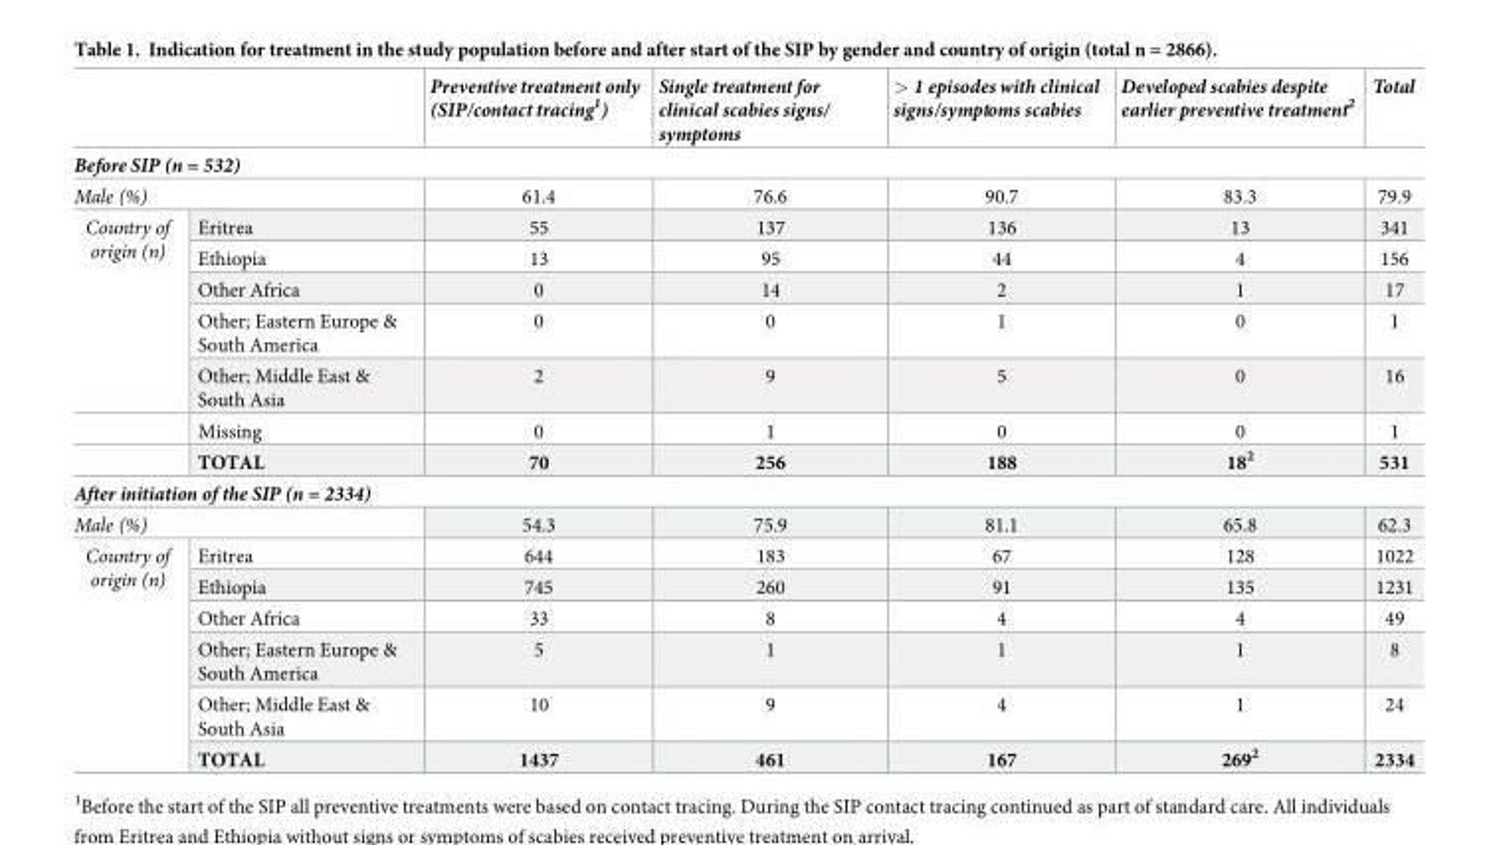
<table><thead><tr><td></td><td></td><td>Preventive treatment only (SIP/contact tracing<sup>1</sup>)</td><td>Single treatment for clinical scabies signs/ symptoms</td><td>&gt; 1 episodes with clinical signs/symptoms scabies</td><td>Developed scabies despite earlier preventive treatment<sup>2</sup></td><td>Total</td></tr></thead><tbody><tr><td colspan="7">Before SIP (n = 532)</td></tr><tr><td colspan="2">Male (%)</td><td>61.4</td><td>76.6</td><td>90.7</td><td>83.3</td><td>79.9</td></tr><tr><td rowspan="7">Country of origin (n)</td><td>Eritrea</td><td>55</td><td>137</td><td>136</td><td>13</td><td>341</td></tr><tr><td>Ethiopia</td><td>13</td><td>95</td><td>44</td><td>4</td><td>156</td></tr><tr><td>Other Africa</td><td>0</td><td>14</td><td>2</td><td>1</td><td>17</td></tr><tr><td>Other; Eastern Europe &amp; South America</td><td>0</td><td>0</td><td>1</td><td>0</td><td>1</td></tr><tr><td>Other; Middle East &amp; South Asia</td><td>2</td><td>9</td><td>5</td><td>0</td><td>16</td></tr><tr><td>Missing</td><td>0</td><td>1</td><td>0</td><td>0</td><td>1</td></tr><tr><td>TOTAL</td><td>70</td><td>256</td><td>188</td><td>18<sup>2</sup></td><td>531</td></tr><tr><td colspan="7">After initiation of the SIP (n = 2334)</td></tr><tr><td colspan="2">Male (%)</td><td>54.3</td><td>75.9</td><td>81.1</td><td>65.8</td><td>62.3</td></tr><tr><td rowspan="6">Country of origin (n)</td><td>Eritrea</td><td>644</td><td>183</td><td>67</td><td>128</td><td>1022</td></tr><tr><td>Ethiopia</td><td>745</td><td>260</td><td>91</td><td>135</td><td>1231</td></tr><tr><td>Other Africa</td><td>33</td><td>8</td><td>4</td><td>4</td><td>49</td></tr><tr><td>Other; Eastern Europe &amp; South America</td><td>5</td><td>1</td><td>1</td><td>1</td><td>8</td></tr><tr><td>Other; Middle East &amp; South Asia</td><td>10</td><td>9</td><td>4</td><td>1</td><td>24</td></tr><tr><td>TOTAL</td><td>1437</td><td>461</td><td>167</td><td>269<sup>2</sup></td><td>2334</td></tr></tbody></table>